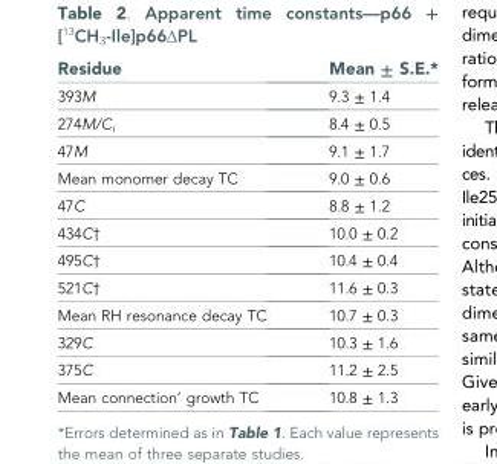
<table><thead><tr><td>Residue</td><td>Mean ± S.E.*</td></tr></thead><tbody><tr><td>393M</td><td>9.3 ± 1.4</td></tr><tr><td>274M/C<sub>i</sub></td><td>8.4 ± 0.5</td></tr><tr><td>47M</td><td>9.1 ± 1.7</td></tr><tr><td>Mean monomer decay TC</td><td>9.0 ± 0.6</td></tr><tr><td>47C</td><td>8.8 ± 1.2</td></tr><tr><td>434C†</td><td>10.0 ± 0.2</td></tr><tr><td>495C†</td><td>10.4 ± 0.4</td></tr><tr><td>521C†</td><td>11.6 ± 0.3</td></tr><tr><td>Mean RH resonance decay TC</td><td>10.7 ± 0.3</td></tr><tr><td>329C</td><td>10.3 ± 1.6</td></tr><tr><td>375C</td><td>11.2 ± 2.5</td></tr><tr><td>Mean connection’ growth TC</td><td>10.8 ± 1.3</td></tr></tbody></table>